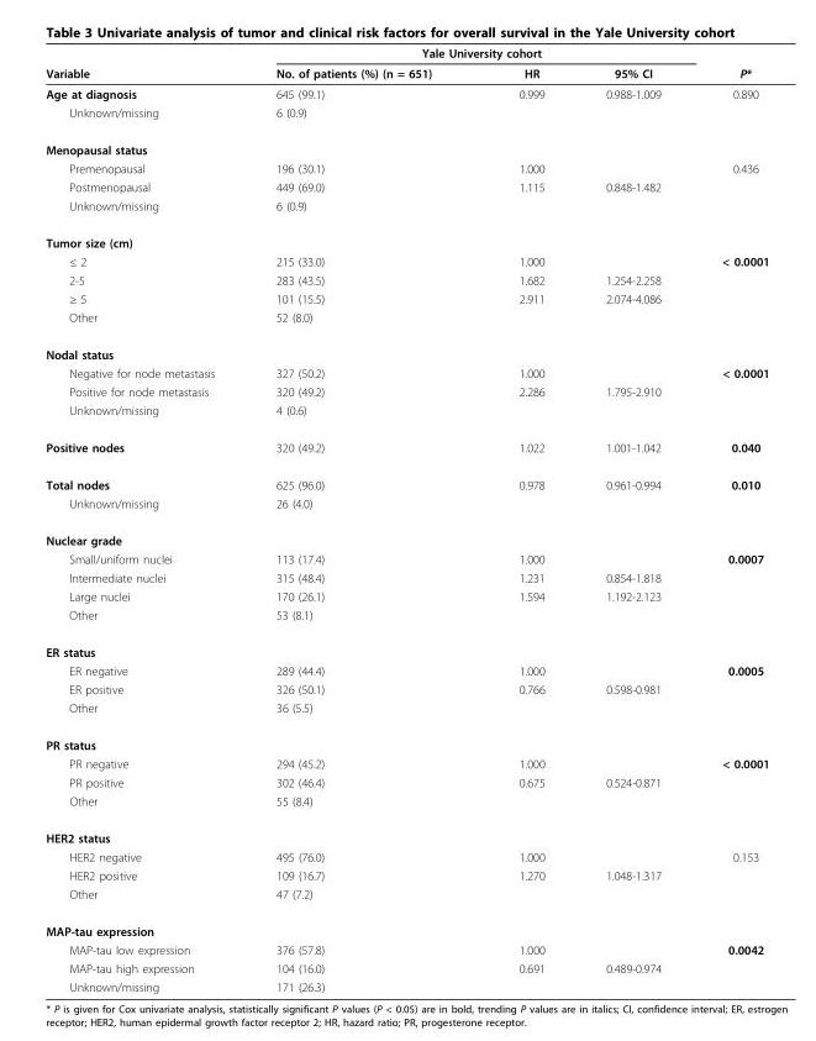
<table><thead><tr><td rowspan="2">Variable</td><td colspan="3">Yale University cohort</td><td rowspan="2">P*</td></tr><tr><td>No. of patients (%) (n = 651)</td><td>HR</td><td>95% CI</td></tr></thead><tbody><tr><td>Age at diagnosis</td><td>645 (99.1)</td><td>0.999</td><td>0.988-1.009</td><td>0.890</td></tr><tr><td>Unknown/missing</td><td>6 (0.9)</td><td></td><td></td><td></td></tr><tr><td colspan="5">Menopausal status</td></tr><tr><td>Premenopausal</td><td>196 (30.1)</td><td>1.000</td><td></td><td>0.436</td></tr><tr><td>Postmenopausal</td><td>449 (69.0)</td><td>1.115</td><td>0.848-1.482</td><td></td></tr><tr><td>Unknown/missing</td><td>6 (0.9)</td><td></td><td></td><td></td></tr><tr><td colspan="5">Tumor size (cm)</td></tr><tr><td>≤ 2</td><td>215 (33.0)</td><td>1.000</td><td></td><td>&lt; 0.0001</td></tr><tr><td>2-5</td><td>283 (43.5)</td><td>1.682</td><td>1.254-2.258</td><td></td></tr><tr><td>≥ 5</td><td>101 (15.5)</td><td>2.911</td><td>2.074-4.086</td><td></td></tr><tr><td>Other</td><td>52 (8.0)</td><td></td><td></td><td></td></tr><tr><td colspan="5">Nodal status</td></tr><tr><td>Negative for node metastasis</td><td>327 (50.2)</td><td>1.000</td><td></td><td>&lt; 0.0001</td></tr><tr><td>Positive for node metastasis</td><td>320 (49.2)</td><td>2.286</td><td>1.795-2.910</td><td></td></tr><tr><td>Unknown/missing</td><td>4 (0.6)</td><td></td><td></td><td></td></tr><tr><td>Positive nodes</td><td>320 (49.2)</td><td>1.022</td><td>1.001-1.042</td><td>0.040</td></tr><tr><td>Total nodes</td><td>625 (96.0)</td><td>0.978</td><td>0.961-0.994</td><td>0.010</td></tr><tr><td>Unknown/missing</td><td>26 (4.0)</td><td></td><td></td><td></td></tr><tr><td colspan="5">Nuclear grade</td></tr><tr><td>Small/uniform nuclei</td><td>113 (17.4)</td><td>1.000</td><td></td><td>0.0007</td></tr><tr><td>Intermediate nuclei</td><td>315 (48.4)</td><td>1.231</td><td>0.854-1.818</td><td></td></tr><tr><td>Large nuclei</td><td>170 (26.1)</td><td>1.594</td><td>1.192-2.123</td><td></td></tr><tr><td>Other</td><td>53 (8.1)</td><td></td><td></td><td></td></tr><tr><td colspan="5">ER status</td></tr><tr><td>ER negative</td><td>289 (44.4)</td><td>1.000</td><td></td><td>0.0005</td></tr><tr><td>ER positive</td><td>326 (50.1)</td><td>0.766</td><td>0.598-0.981</td><td></td></tr><tr><td>Other</td><td>36 (5.5)</td><td></td><td></td><td></td></tr><tr><td colspan="5">PR status</td></tr><tr><td>PR negative</td><td>294 (45.2)</td><td>1.000</td><td></td><td>&lt; 0.0001</td></tr><tr><td>PR positive</td><td>302 (46.4)</td><td>0.675</td><td>0.524-0.871</td><td></td></tr><tr><td>Other</td><td>55 (8.4)</td><td></td><td></td><td></td></tr><tr><td colspan="5">HER2 status</td></tr><tr><td>HER2 negative</td><td>495 (76.0)</td><td>1.000</td><td></td><td>0.153</td></tr><tr><td>HER2 positive</td><td>109 (16.7)</td><td>1.270</td><td>1.048-1.317</td><td></td></tr><tr><td>Other</td><td>47 (7.2)</td><td></td><td></td><td></td></tr><tr><td colspan="5">MAP-tau expression</td></tr><tr><td>MAP-tau low expression</td><td>376 (57.8)</td><td>1.000</td><td></td><td>0.0042</td></tr><tr><td>MAP-tau high expression</td><td>104 (16.0)</td><td>0.691</td><td>0.489-0.974</td><td></td></tr><tr><td>Unknown/missing</td><td>171 (26.3)</td><td></td><td></td><td></td></tr></tbody></table>